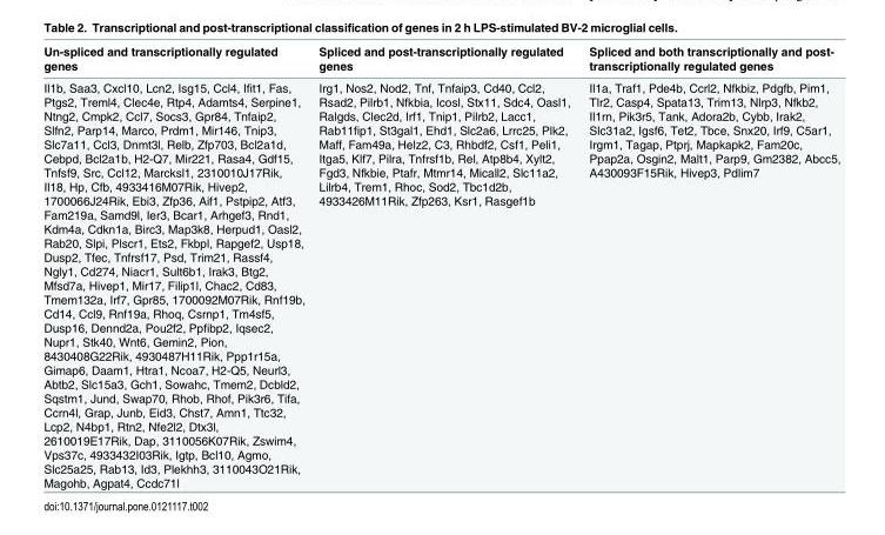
<table><thead><tr><td>Un-spliced and transcriptionally regulated genes</td><td>Spliced and post-transcriptionally regulated genes</td><td>Spliced and both transcriptionally and post- transcriptionally regulated genes</td></tr></thead><tbody><tr><td>Il1b, Saa3, Cxcl10, Lcn2, Isg15, Ccl4, Ifit1, Fas, Ptgs2, Treml4, Clec4e, Rtp4, Adamts4, Serpine1, Ntng2, Cmpk2, Ccl7, Socs3, Gpr84, Tnfaip2, Slfn2, Parp14, Marco, Prdm1, Mir146, Tnip3, Slc7a11, Ccl3, Dnmt3l, Relb, Zfp703, Bcl2a1d, Cebpd, Bcl2a1b, H2-Q7, Mir221, Rasa4, Gdf15, Tnfsf9, Src, Ccl12, Marcksl1, 2310010J17Rik, Il18, Hp, Cfb, 4933416M07Rik, Hivep2, 1700066J24Rik, Ebi3, Zfp36, Aif1, Pstpip2, Atf3, Fam219a, Samd9l, Ier3, Bcar1, Arhgef3, Rnd1, Kdm4a, Cdkn1a, Birc3, Map3k8, Herpud1, Oasl2, Rab20, Slpi, Plscr1, Ets2, Fkbpl, Rapgef2, Usp18, Dusp2, Tfec, Tnfrsf17, Psd, Trim21, Rassf4, Ngly1, Cd274, Niacr1, Sult6b1, Irak3, Btg2, Mfsd7a, Hivep1, Mir17, Filip1l, Chac2, Cd83, Tmem132a, Irf7, Gpr85, 1700092M07Rik, Rnf19b, Cd14, Ccl9, Rnf19a, Rhoq, Csrnp1, Tm4sf5, Dusp16, Dennd2a, Pou2f2, Ppfibp2, Iqsec2, Nupr1, Stk40, Wnt6, Gemin2, Pion, 8430408G22Rik, 4930487H11Rik, Ppp1r15a, Gimap6, Daam1, Htra1, Ncoa7, H2-Q5, Neurl3, Abtb2, Slc15a3, Gch1, Sowahc, Tmem2, Dcbld2, Sqstm1, Jund, Swap70, Rhob, Rhof, Pik3r6, Tifa, Ccrn4l, Grap, Junb, Eid3, Chst7, Amn1, Ttc32, Lcp2, N4bp1, Rtn2, Nfe2l2, Dtx3l, 2610019E17Rik, Dap, 3110056K07Rik, Zswim4, Vps37c, 4933432I03Rik, Igtp, Bcl10, Agmo, Slc25a25, Rab13, Id3, Plekhh3, 3110043O21Rik, Magohb, Agpat4, Ccdc71l</td><td>Irg1, Nos2, Nod2, Tnf, Tnfaip3, Cd40, Ccl2, Rsad2, Pilrb1, Nfkbia, Icosl, Stx11, Sdc4, Oasl1, Ralgds, Clec2d, Irf1, Tnip1, Pilrb2, Lacc1, Rab11fip1, St3gal1, Ehd1, Slc2a6, Lrrc25, Plk2, Maff, Fam49a, Helz2, C3, Rhbdf2, Csf1, Peli1, Itga5, Klf7, Pilra, Tnfrsf1b, Rel, Atp8b4, Xylt2, Fgd3, Nfkbie, Ptafr, Mtmr14, Micall2, Slc11a2, Lilrb4, Trem1, Rhoc, Sod2, Tbc1d2b, 4933426M11Rik, Zfp263, Ksr1, Rasgef1b</td><td>Il1a, Traf1, Pde4b, Ccrl2, Nfkbiz, Pdgfb, Pim1, Tlr2, Casp4, Spata13, Trim13, Nlrp3, Nfkb2, Il1rn, Pik3r5, Tank, Adora2b, Cybb, Irak2, Slc31a2, Igsf6, Tet2, Tbce, Snx20, Irf9, C5ar1, Irgm1, Tagap, Ptprj, Mapkapk2, Fam20c, Ppap2a, Osgin2, Malt1, Parp9, Gm2382, Abcc5, A430093F15Rik, Hivep3, Pdlim7</td></tr></tbody></table>